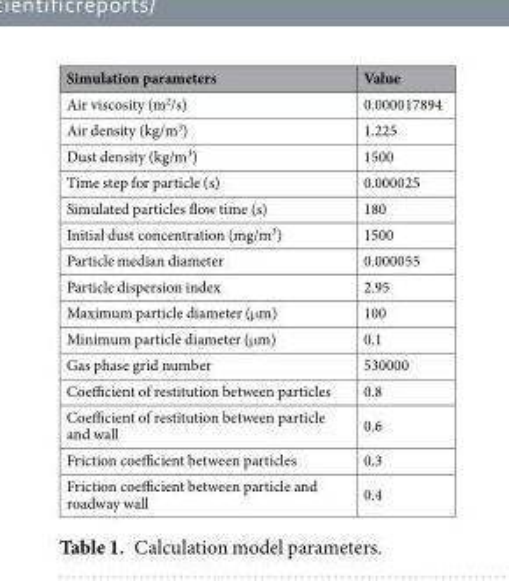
<table><thead><tr><td>Simulation parameters</td><td>Value</td></tr></thead><tbody><tr><td>Air viscosity (m<sup>2</sup>/s)</td><td>0.000017894</td></tr><tr><td>Air density (kg/m<sup>3</sup>)</td><td>1.225</td></tr><tr><td>Dust density (kg/m<sup>3</sup>)</td><td>1500</td></tr><tr><td>Time step for particle (s)</td><td>0.000025</td></tr><tr><td>Simulated particles flow time (s)</td><td>180</td></tr><tr><td>Initial dust concentration (mg/m<sup>3</sup>)</td><td>1500</td></tr><tr><td>Particle median diameter</td><td>0.000055</td></tr><tr><td>Particle dispersion index</td><td>2.95</td></tr><tr><td>Maximum particle diameter (μm)</td><td>100</td></tr><tr><td>Minimum particle diameter (μm)</td><td>0.1</td></tr><tr><td>Gas phase grid number</td><td>530000</td></tr><tr><td>Coefficient of restitution between particles</td><td>0.8</td></tr><tr><td>Coefficient of restitution between particle and wall</td><td>0.6</td></tr><tr><td>Friction coefficient between particles</td><td>0.3</td></tr><tr><td>Friction coefficient between particle and roadway wall</td><td>0.4</td></tr></tbody></table>